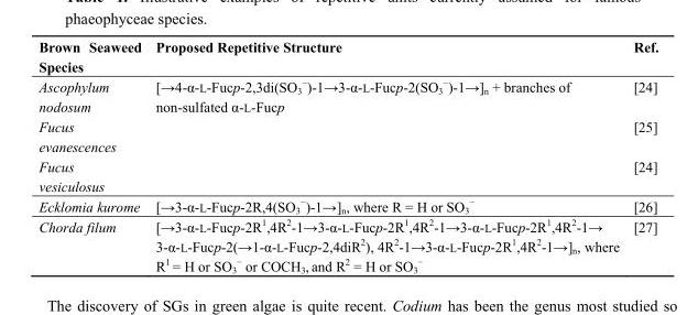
<table><thead><tr><td>Brown Seaweed Species</td><td>Proposed Repetitive Structure</td><td>Ref.</td></tr></thead><tbody><tr><td>Ascophylum nodosum</td><td rowspan="3">[→4-α-L-Fucp-2,3di(SO<sub>3</sub> <sup>−</sup>)-1→3-α-L-Fucp-2(SO<sub>3</sub> <sup>−</sup>)-1→]<sub>n</sub> + branches of non-sulfated α-L-Fucp</td><td>[24]</td></tr><tr><td>Fucus evanescences</td><td>[25]</td></tr><tr><td>Fucus vesiculosus</td><td>[24]</td></tr><tr><td>Ecklomia kurome</td><td>[→3-α-L-Fucp-2R,4(SO<sub>3</sub> <sup>−</sup>)-1→]<sub>n</sub>, where R = H or SO<sub>3</sub> <sup>−</sup></td><td>[26]</td></tr><tr><td>Chorda filum</td><td>[→3-α-L-Fucp-2R<sup>1</sup>,4R<sup>2</sup>-1→3-α-L-Fucp-2R<sup>1</sup>,4R<sup>2</sup>-1→3-α-L-Fucp-2R<sup>1</sup>,4R<sup>2</sup>-1→ 3-α-L-Fucp-2(→1-α-L-Fucp-2,4diR<sup>2</sup>), 4R<sup>2</sup>-1→3-α-L-Fucp-2R<sup>1</sup>,4R<sup>2</sup>-1→]<sub>n</sub>, where R<sup>1</sup> = H or SO<sub>3</sub> <sup>−</sup> or COCH<sub>3</sub>, and R<sup>2</sup> = H or SO<sub>3</sub> <sup>−</sup></td><td>[27]</td></tr></tbody></table>